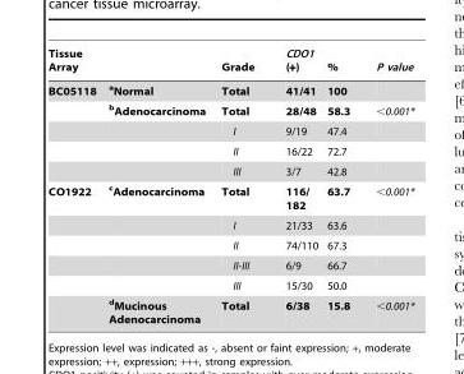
<table><thead><tr><td>Tissue Array</td><td></td><td>Grade</td><td>CDO1 (+)</td><td>%</td><td>P value</td></tr></thead><tbody><tr><td rowspan="5">BC05118</td><td>aNormal</td><td>Total</td><td>41/41</td><td>100</td><td></td></tr><tr><td>bAdenocarcinoma</td><td>Total</td><td>28/48</td><td>58.3</td><td>&lt;0.001*</td></tr><tr><td></td><td>I</td><td>9/19</td><td>47.4</td><td></td></tr><tr><td></td><td>II</td><td>16/22</td><td>72.7</td><td></td></tr><tr><td></td><td>III</td><td>3/7</td><td>42.8</td><td></td></tr><tr><td rowspan="6">CO1922</td><td>cAdenocarcinoma</td><td>Total</td><td>116/ 182</td><td>63.7</td><td>&lt;0.001*</td></tr><tr><td></td><td>I</td><td>21/33</td><td>63.6</td><td></td></tr><tr><td></td><td>II</td><td>74/110</td><td>67.3</td><td></td></tr><tr><td></td><td>II-III</td><td>6/9</td><td>66.7</td><td></td></tr><tr><td></td><td>III</td><td>15/30</td><td>50.0</td><td></td></tr><tr><td>dMucinous Adenocarcinoma</td><td>Total</td><td>6/38</td><td>15.8</td><td>&lt;0.001*</td></tr></tbody></table>